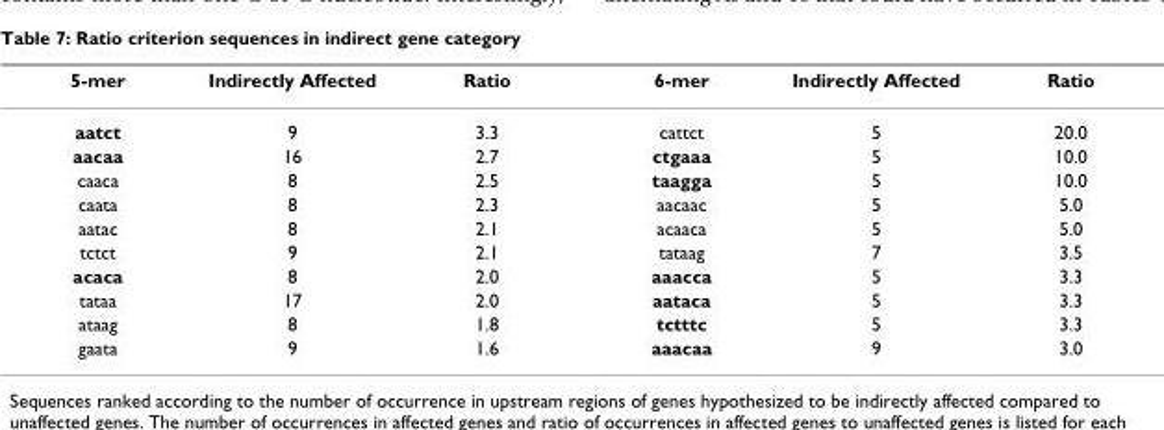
<table><thead><tr><td>5-mer</td><td>Indirectly Affected</td><td>Ratio</td><td>6-mer</td><td>Indirectly Affected</td><td>Ratio</td></tr></thead><tbody><tr><td>aatct</td><td>9</td><td>3.3</td><td>cattct</td><td>5</td><td>20.0</td></tr><tr><td>aacaa</td><td>16</td><td>2.7</td><td>ctgaaa</td><td>5</td><td>10.0</td></tr><tr><td>caaca</td><td>8</td><td>2.5</td><td>taagga</td><td>5</td><td>10.0</td></tr><tr><td>caata</td><td>8</td><td>2.3</td><td>aacaac</td><td>5</td><td>5.0</td></tr><tr><td>aatac</td><td>8</td><td>2.1</td><td>acaaca</td><td>5</td><td>5.0</td></tr><tr><td>tctct</td><td>9</td><td>2.1</td><td>tataag</td><td>7</td><td>3.5</td></tr><tr><td>acaca</td><td>8</td><td>2.0</td><td>aaacca</td><td>5</td><td>3.3</td></tr><tr><td>tataa</td><td>17</td><td>2.0</td><td>aataca</td><td>5</td><td>3.3</td></tr><tr><td>ataag</td><td>8</td><td>1.8</td><td>tctttc</td><td>5</td><td>3.3</td></tr><tr><td>gaata</td><td>9</td><td>1.6</td><td>aaacaa</td><td>9</td><td>3.0</td></tr></tbody></table>